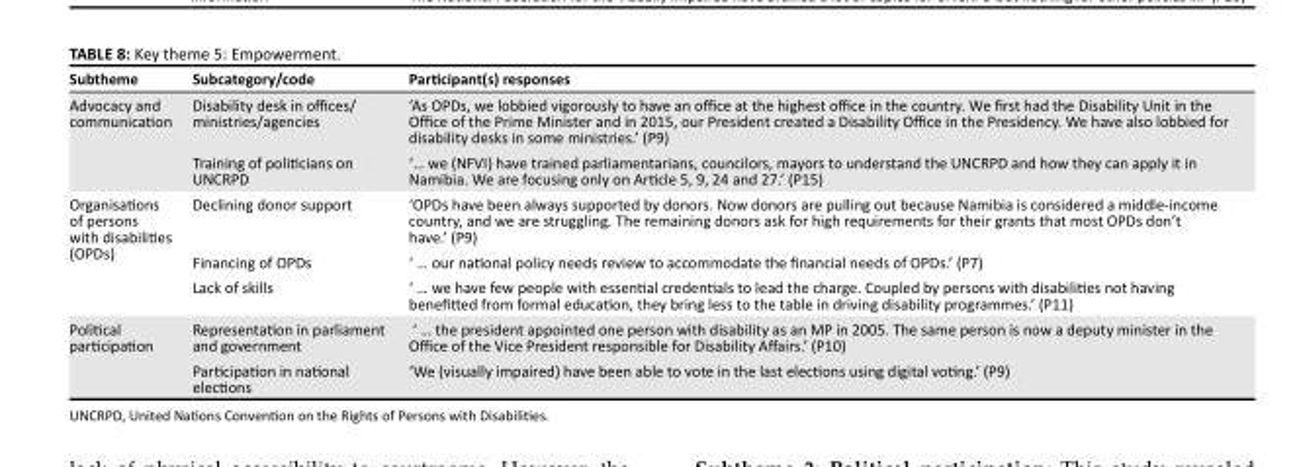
<table><thead><tr><td>Subtheme</td><td>Subcategory/code</td><td>Participant(s) responses</td></tr></thead><tbody><tr><td rowspan="2">Advocacy and communication</td><td>Disability desk in offices/ ministries/agencies</td><td>‘As OPDs, we lobbied vigorously to have an office at the highest office in the country. We first had the Disability Unit in the Office of the Prime Minister and in 2015, our President created a Disability Office in the Presidency. We have also lobbied for disability desks in some ministries.’ (P9)</td></tr><tr><td>Training of politicians on UNCRPD</td><td>‘… we (NFVI) have trained parliamentarians, councilors, mayors to understand the UNCRPD and how they can apply it in Namibia. We are focusing only on Article 5, 9, 24 and 27.’ (P15)</td></tr><tr><td rowspan="3">Organisations of persons with disabilities (OPDs)</td><td>Declining donor support</td><td>‘OPDs have been always supported by donors. Now donors are pulling out because Namibia is considered a middle-income country, and we are struggling. The remaining donors ask for high requirements for their grants that most OPDs don’t have.’ (P9)</td></tr><tr><td>Financing of OPDs</td><td>‘ … our national policy needs review to accommodate the financial needs of OPDs.’ (P7)</td></tr><tr><td>Lack of skills</td><td>‘ … we have few people with essential credentials to lead the charge. Coupled by persons with disabilities not having benefitted from formal education, they bring less to the table in driving disability programmes.’ (P11)</td></tr><tr><td rowspan="2">Political participation</td><td>Representation in parliament and government</td><td>‘ … the president appointed one person with disability as an MP in 2005. The same person is now a deputy minister in the Office of the Vice President responsible for Disability Affairs.’ (P10)</td></tr><tr><td>Participation in national elections</td><td>‘We (visually impaired) have been able to vote in the last elections using digital voting.’ (P9)</td></tr></tbody></table>